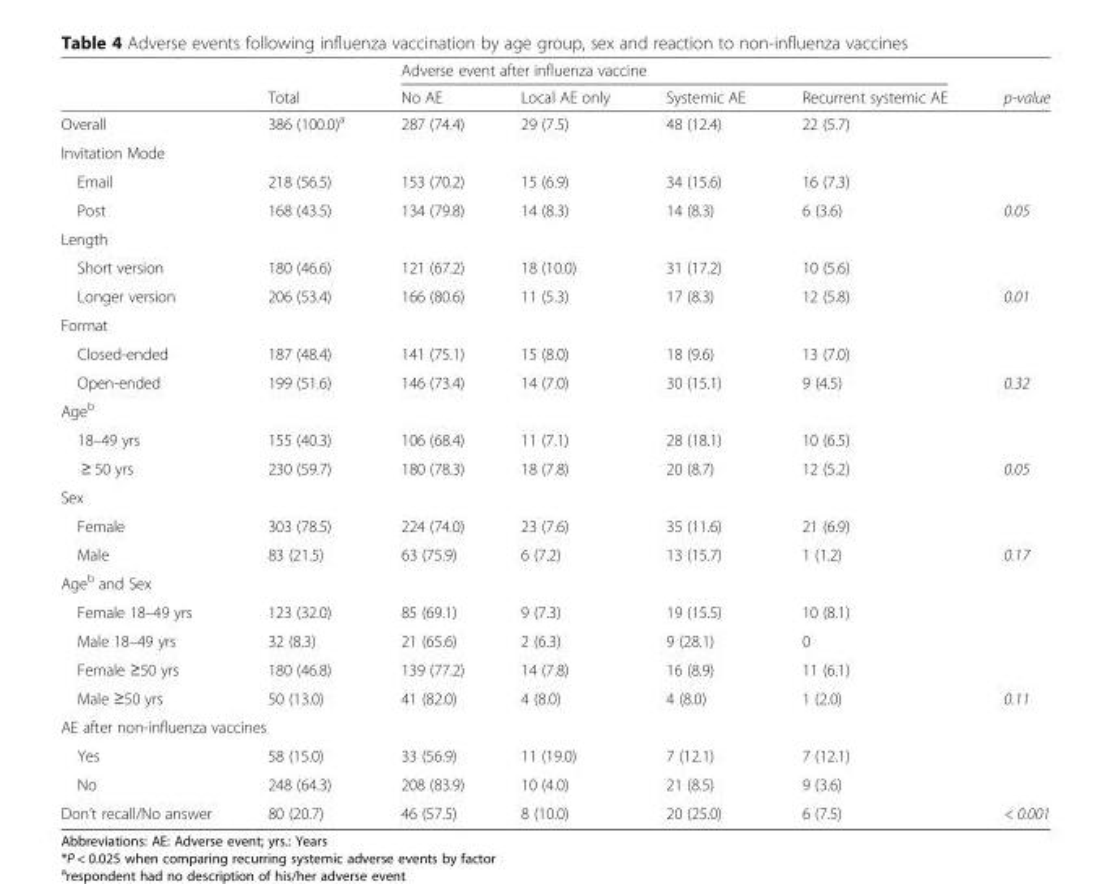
<table><thead><tr><td rowspan="2"></td><td rowspan="2">Total</td><td colspan="4">Adverse event after influenza vaccine</td><td rowspan="2">p-value</td></tr><tr><td>No AE</td><td>Local AE only</td><td>Systemic AE</td><td>Recurrent systemic AE</td></tr></thead><tbody><tr><td>Overall</td><td>386 (100.0)<sup>a</sup></td><td>287 (74.4)</td><td>29 (7.5)</td><td>48 (12.4)</td><td>22 (5.7)</td><td></td></tr><tr><td colspan="7">Invitation Mode</td></tr><tr><td>Email</td><td>218 (56.5)</td><td>153 (70.2)</td><td>15 (6.9)</td><td>34 (15.6)</td><td>16 (7.3)</td><td></td></tr><tr><td>Post</td><td>168 (43.5)</td><td>134 (79.8)</td><td>14 (8.3)</td><td>14 (8.3)</td><td>6 (3.6)</td><td>0.05</td></tr><tr><td colspan="7">Length</td></tr><tr><td>Short version</td><td>180 (46.6)</td><td>121 (67.2)</td><td>18 (10.0)</td><td>31 (17.2)</td><td>10 (5.6)</td><td></td></tr><tr><td>Longer version</td><td>206 (53.4)</td><td>166 (80.6)</td><td>11 (5.3)</td><td>17 (8.3)</td><td>12 (5.8)</td><td>0.01</td></tr><tr><td colspan="7">Format</td></tr><tr><td>Closed-ended</td><td>187 (48.4)</td><td>141 (75.1)</td><td>15 (8.0)</td><td>18 (9.6)</td><td>13 (7.0)</td><td></td></tr><tr><td>Open-ended</td><td>199 (51.6)</td><td>146 (73.4)</td><td>14 (7.0)</td><td>30 (15.1)</td><td>9 (4.5)</td><td>0.32</td></tr><tr><td colspan="7">Age<sup>b</sup></td></tr><tr><td>18–49 yrs</td><td>155 (40.3)</td><td>106 (68.4)</td><td>11 (7.1)</td><td>28 (18.1)</td><td>10 (6.5)</td><td></td></tr><tr><td>≥ 50 yrs</td><td>230 (59.7)</td><td>180 (78.3)</td><td>18 (7.8)</td><td>20 (8.7)</td><td>12 (5.2)</td><td>0.05</td></tr><tr><td colspan="7">Sex</td></tr><tr><td>Female</td><td>303 (78.5)</td><td>224 (74.0)</td><td>23 (7.6)</td><td>35 (11.6)</td><td>21 (6.9)</td><td></td></tr><tr><td>Male</td><td>83 (21.5)</td><td>63 (75.9)</td><td>6 (7.2)</td><td>13 (15.7)</td><td>1 (1.2)</td><td>0.17</td></tr><tr><td colspan="7">Age<sup>b</sup> and Sex</td></tr><tr><td>Female 18–49 yrs</td><td>123 (32.0)</td><td>85 (69.1)</td><td>9 (7.3)</td><td>19 (15.5)</td><td>10 (8.1)</td><td></td></tr><tr><td>Male 18–49 yrs</td><td>32 (8.3)</td><td>21 (65.6)</td><td>2 (6.3)</td><td>9 (28.1)</td><td>0</td><td></td></tr><tr><td>Female ≥50 yrs</td><td>180 (46.8)</td><td>139 (77.2)</td><td>14 (7.8)</td><td>16 (8.9)</td><td>11 (6.1)</td><td></td></tr><tr><td>Male ≥50 yrs</td><td>50 (13.0)</td><td>41 (82.0)</td><td>4 (8.0)</td><td>4 (8.0)</td><td>1 (2.0)</td><td>0.11</td></tr><tr><td colspan="7">AE after non-influenza vaccines</td></tr><tr><td>Yes</td><td>58 (15.0)</td><td>33 (56.9)</td><td>11 (19.0)</td><td>7 (12.1)</td><td>7 (12.1)</td><td></td></tr><tr><td>No</td><td>248 (64.3)</td><td>208 (83.9)</td><td>10 (4.0)</td><td>21 (8.5)</td><td>9 (3.6)</td><td></td></tr><tr><td>Don’t recall/No answer</td><td>80 (20.7)</td><td>46 (57.5)</td><td>8 (10.0)</td><td>20 (25.0)</td><td>6 (7.5)</td><td>&lt; 0.001</td></tr></tbody></table>